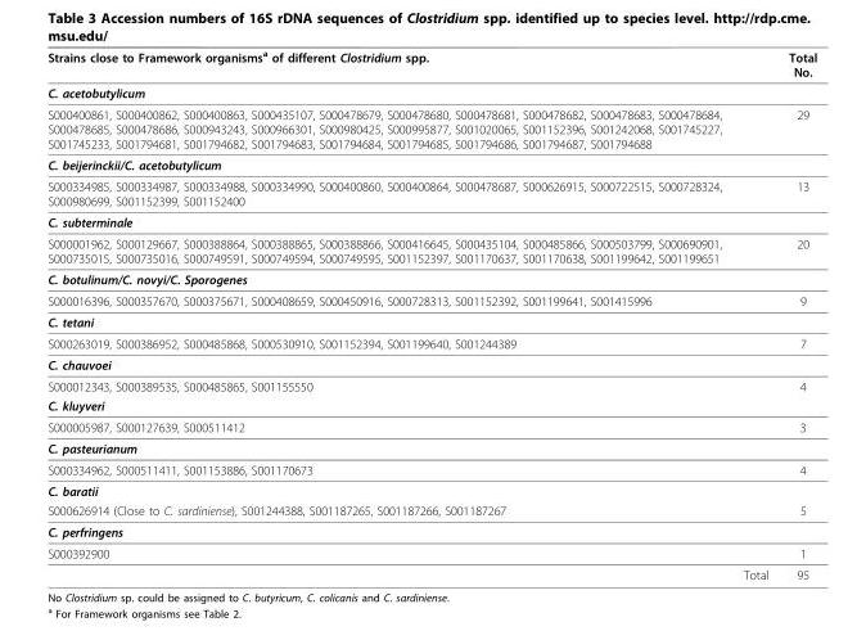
<table><thead><tr><td>Strains close to Framework organismsa of different Clostridium spp.</td><td>Total No.</td></tr></thead><tbody><tr><td colspan="2">C. acetobutylicum</td></tr><tr><td>S000400861, S000400862, S000400863, S000435107, S000478679, S000478680, S000478681, S000478682, S000478683, S000478684, S000478685, S000478686, S000943243, S000966301, S000980425, S000995877, S001020065, S001152396, S001242068, S001745227, S001745233, S001794681, S001794682, S001794683, S001794684, S001794685, S001794686, S001794687, S001794688</td><td>29</td></tr><tr><td colspan="2">C. beijerinckii/C. acetobutylicum</td></tr><tr><td>S000334985, S000334987, S000334988, S000334990, S000400860, S000400864, S000478687, S000626915, S000722515, S000728324, S000980699, S001152399, S001152400</td><td>13</td></tr><tr><td colspan="2">C. subterminale</td></tr><tr><td>S000001962, S000129667, S000388864, S000388865, S000388866, S000416645, S000435104, S000485866, S000503799, S000690901, S000735015, S000735016, S000749591, S000749594, S000749595, S001152397, S001170637, S001170638, S001199642, S001199651</td><td>20</td></tr><tr><td colspan="2">C. botulinum/C. novyi/C. Sporogenes</td></tr><tr><td>S000016396, S000357670, S000375671, S000408659, S000450916, S000728313, S001152392, S001199641, S001415996</td><td>9</td></tr><tr><td colspan="2">C. tetani</td></tr><tr><td>S000263019, S000386952, S000485868, S000530910, S001152394, S001199640, S001244389</td><td>7</td></tr><tr><td colspan="2">C. chauvoei</td></tr><tr><td>S000012343, S000389535, S000485865, S001155550</td><td>4</td></tr><tr><td colspan="2">C. kluyveri</td></tr><tr><td>S000005987, S000127639, S000511412</td><td>3</td></tr><tr><td colspan="2">C. pasteurianum</td></tr><tr><td>S000334962, S000511411, S001153886, S001170673</td><td>4</td></tr><tr><td colspan="2">C. baratii</td></tr><tr><td>S000626914 (Close to C. sardiniense), S001244388, S001187265, S001187266, S001187267</td><td>5</td></tr><tr><td colspan="2">C. perfringens</td></tr><tr><td>S000392900</td><td>1</td></tr><tr><td>Total</td><td>95</td></tr></tbody></table>